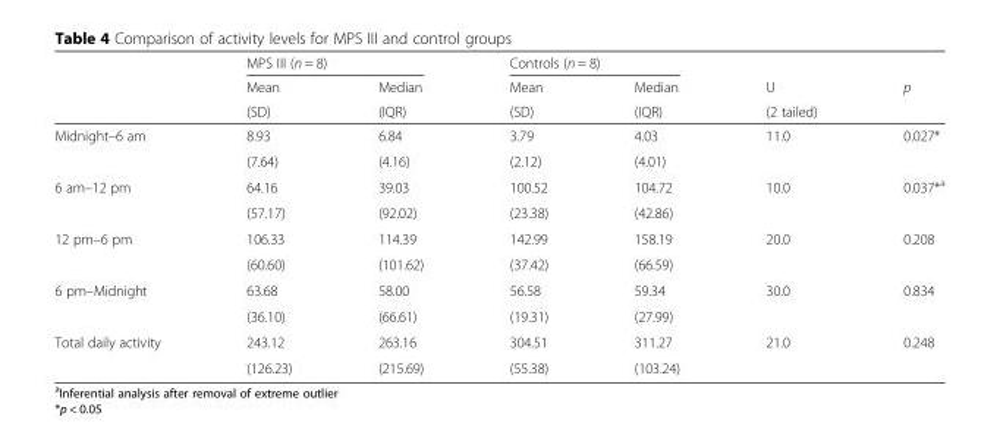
<table><thead><tr><td rowspan="3"></td><td colspan="2">MPS III (n = 8)</td><td colspan="2">Controls (n = 8)</td><td rowspan="3">U (2 tailed)</td><td rowspan="3">p</td></tr><tr><td rowspan="2">Mean (SD)</td><td rowspan="2">Median (IQR)</td><td rowspan="2">Mean (SD)</td><td rowspan="2">Median (IQR)</td></tr><tr></tr></thead><tbody><tr><td rowspan="2">Midnight–6 am</td><td>8.93</td><td>6.84</td><td>3.79</td><td>4.03</td><td rowspan="2">11.0</td><td rowspan="2">0.027*</td></tr><tr><td>(7.64)</td><td>(4.16)</td><td>(2.12)</td><td>(4.01)</td></tr><tr><td rowspan="2">6 am–12 pm</td><td>64.16</td><td>39.03</td><td>100.52</td><td>104.72</td><td rowspan="2">10.0</td><td rowspan="2">0.037*<sup>a</sup></td></tr><tr><td>(57.17)</td><td>(92.02)</td><td>(23.38)</td><td>(42.86)</td></tr><tr><td rowspan="2">12 pm–6 pm</td><td>106.33</td><td>114.39</td><td>142.99</td><td>158.19</td><td rowspan="2">20.0</td><td rowspan="2">0.208</td></tr><tr><td>(60.60)</td><td>(101.62)</td><td>(37.42)</td><td>(66.59)</td></tr><tr><td rowspan="2">6 pm–Midnight</td><td>63.68</td><td>58.00</td><td>56.58</td><td>59.34</td><td rowspan="2">30.0</td><td rowspan="2">0.834</td></tr><tr><td>(36.10)</td><td>(66.61)</td><td>(19.31)</td><td>(27.99)</td></tr><tr><td rowspan="2">Total daily activity</td><td>243.12</td><td>263.16</td><td>304.51</td><td>311.27</td><td rowspan="2">21.0</td><td rowspan="2">0.248</td></tr><tr><td>(126.23)</td><td>(215.69)</td><td>(55.38)</td><td>(103.24)</td></tr></tbody></table>